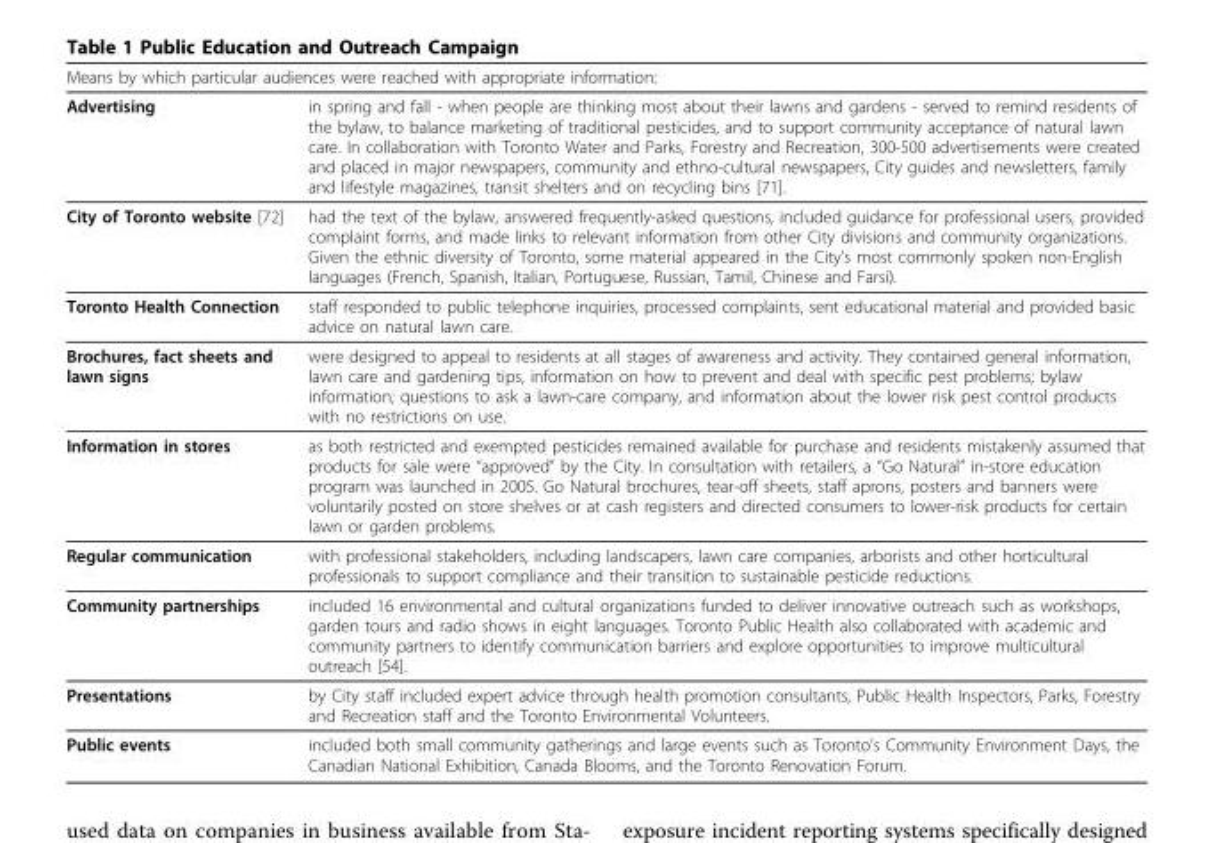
<table><thead><tr><td colspan="2">Means by which particular audiences were reached with appropriate information:</td></tr><tr><td>Advertising</td><td>in spring and fall - when people are thinking most about their lawns and gardens - served to remind residents of the bylaw, to balance marketing of traditional pesticides, and to support community acceptance of natural lawn care. In collaboration with Toronto Water and Parks, Forestry and Recreation, 300-500 advertisements were created and placed in major newspapers, community and ethno-cultural newspapers, City guides and newsletters, family and lifestyle magazines, transit shelters and on recycling bins [71].</td></tr></thead><tbody><tr><td>City of Toronto website [72]</td><td>had the text of the bylaw, answered frequently-asked questions, included guidance for professional users, provided complaint forms, and made links to relevant information from other City divisions and community organizations. Given the ethnic diversity of Toronto, some material appeared in the City’s most commonly spoken non-English languages (French, Spanish, Italian, Portuguese, Russian, Tamil, Chinese and Farsi).</td></tr><tr><td>Toronto Health Connection</td><td>staff responded to public telephone inquiries, processed complaints, sent educational material and provided basic advice on natural lawn care.</td></tr><tr><td>Brochures, fact sheets and lawn signs</td><td>were designed to appeal to residents at all stages of awareness and activity. They contained general information, lawn care and gardening tips, information on how to prevent and deal with specific pest problems; bylaw information; questions to ask a lawn-care company, and information about the lower risk pest control products with no restrictions on use.</td></tr><tr><td>Information in stores</td><td>as both restricted and exempted pesticides remained available for purchase and residents mistakenly assumed that products for sale were “approved” by the City. In consultation with retailers, a “Go Natural” in-store education program was launched in 2005. Go Natural brochures, tear-off sheets, staff aprons, posters and banners were voluntarily posted on store shelves or at cash registers and directed consumers to lower-risk products for certain lawn or garden problems.</td></tr><tr><td>Regular communication</td><td>with professional stakeholders, including landscapers, lawn care companies, arborists and other horticultural professionals to support compliance and their transition to sustainable pesticide reductions.</td></tr><tr><td>Community partnerships</td><td>included 16 environmental and cultural organizations funded to deliver innovative outreach such as workshops, garden tours and radio shows in eight languages. Toronto Public Health also collaborated with academic and community partners to identify communication barriers and explore opportunities to improve multicultural outreach [54].</td></tr><tr><td>Presentations</td><td>by City staff included expert advice through health promotion consultants, Public Health Inspectors, Parks, Forestry and Recreation staff and the Toronto Environmental Volunteers.</td></tr><tr><td>Public events</td><td>included both small community gatherings and large events such as Toronto’s Community Environment Days, the Canadian National Exhibition, Canada Blooms, and the Toronto Renovation Forum.</td></tr></tbody></table>